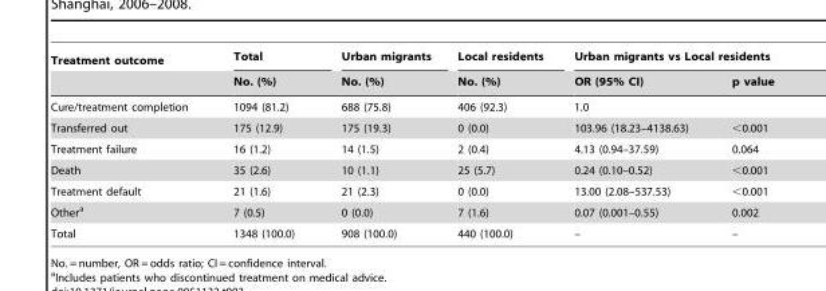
<table><thead><tr><td rowspan="2">Treatment outcome</td><td rowspan="2">Total No. (%)</td><td rowspan="2">Urban migrants No. (%)</td><td rowspan="2">Local residents No. (%)</td><td colspan="2">Urban migrants vs Local residents</td></tr><tr><td>OR (95% CI)</td><td>p value</td></tr></thead><tbody><tr><td>Cure/treatment completion</td><td>1094 (81.2)</td><td>688 (75.8)</td><td>406 (92.3)</td><td>1.0</td><td></td></tr><tr><td>Transferred out</td><td>175 (12.9)</td><td>175 (19.3)</td><td>0 (0.0)</td><td>103.96 (18.23–4138.63)</td><td>&lt;0.001</td></tr><tr><td>Treatment failure</td><td>16 (1.2)</td><td>14 (1.5)</td><td>2 (0.4)</td><td>4.13 (0.94–37.59)</td><td>0.064</td></tr><tr><td>Death</td><td>35 (2.6)</td><td>10 (1.1)</td><td>25 (5.7)</td><td>0.24 (0.10–0.52)</td><td>&lt;0.001</td></tr><tr><td>Treatment default</td><td>21 (1.6)</td><td>21 (2.3)</td><td>0 (0.0)</td><td>13.00 (2.08–537.53)</td><td>&lt;0.001</td></tr><tr><td>Other<sup>a</sup></td><td>7 (0.5)</td><td>0 (0.0)</td><td>7 (1.6)</td><td>0.07 (0.001–0.55)</td><td>0.002</td></tr><tr><td>Total</td><td>1348 (100.0)</td><td>908 (100.0)</td><td>440 (100.0)</td><td>–</td><td>–</td></tr></tbody></table>